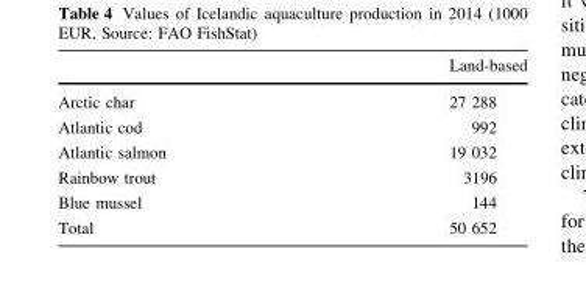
<table><thead><tr><td></td><td>Land-based</td></tr></thead><tbody><tr><td>Arctic char</td><td>27 288</td></tr><tr><td>Atlantic cod</td><td>992</td></tr><tr><td>Atlantic salmon</td><td>19 032</td></tr><tr><td>Rainbow trout</td><td>3196</td></tr><tr><td>Blue mussel</td><td>144</td></tr><tr><td>Total</td><td>50 652</td></tr></tbody></table>